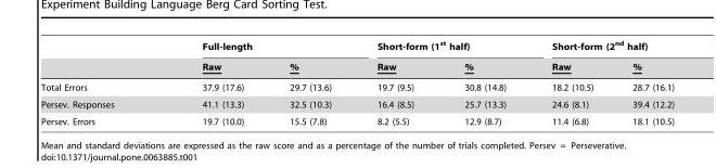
<table><thead><tr><td rowspan="2"></td><td colspan="2">Full-length</td><td colspan="2">Short-form (1<sup>st</sup> half)</td><td colspan="2">Short-form (2<sup>nd</sup> half)</td></tr><tr><td>Raw</td><td>%</td><td>Raw</td><td>%</td><td>Raw</td><td>%</td></tr></thead><tbody><tr><td>Total Errors</td><td>37.9 (17.6)</td><td>29.7 (13.6)</td><td>19.7 (9.5)</td><td>30.8 (14.8)</td><td>18.2 (10.5)</td><td>28.7 (16.1)</td></tr><tr><td>Persev. Responses</td><td>41.1 (13.3)</td><td>32.5 (10.3)</td><td>16.4 (8.5)</td><td>25.7 (13.3)</td><td>24.6 (8.1)</td><td>39.4 (12.2)</td></tr><tr><td>Persev. Errors</td><td>19.7 (10.0)</td><td>15.5 (7.8)</td><td>8.2 (5.5)</td><td>12.9 (8.7)</td><td>11.4 (6.8)</td><td>18.1 (10.5)</td></tr></tbody></table>